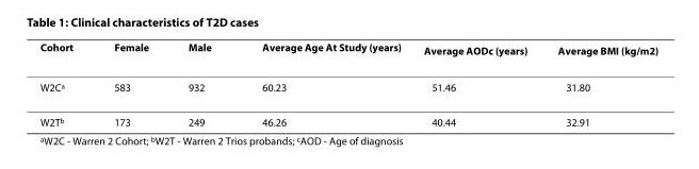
<table><thead><tr><td>Cohort</td><td>Female</td><td>Male</td><td>Average Age At Study (years)</td><td>Average AOD<sup>c</sup> (years)</td><td>Average BMI (kg/m<sup>2</sup>)</td></tr></thead><tbody><tr><td>W2C<sup>a</sup></td><td>583</td><td>932</td><td>60.23</td><td>51.46</td><td>31.80</td></tr><tr><td>W2T<sup>b</sup></td><td>173</td><td>249</td><td>46.26</td><td>40.44</td><td>32.91</td></tr></tbody></table>